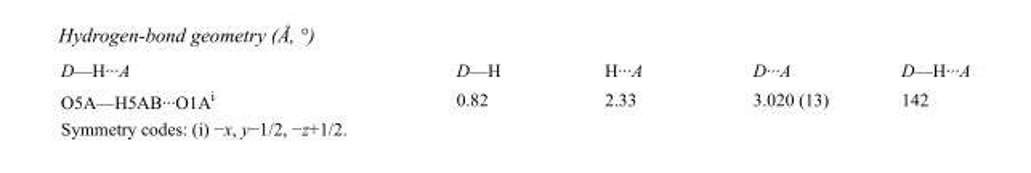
<table><tbody><tr><td>D—H···A</td><td>D—H</td><td>H···A</td><td>D···A</td><td>D—H···A</td></tr><tr><td>O5A—H5AB···O1A<sup>i</sup></td><td>0.82</td><td>2.33</td><td>3.020 (13)</td><td>142</td></tr></tbody></table>